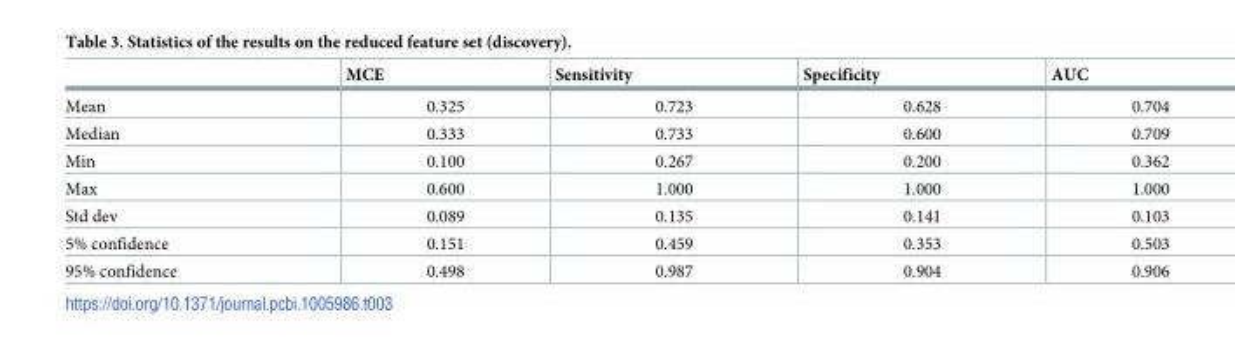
<table><thead><tr><td></td><td>MCE</td><td>Sensitivity</td><td>Specificity</td><td>AUC</td></tr></thead><tbody><tr><td>Mean</td><td>0.325</td><td>0.723</td><td>0.628</td><td>0.704</td></tr><tr><td>Median</td><td>0.333</td><td>0.733</td><td>0.600</td><td>0.709</td></tr><tr><td>Min</td><td>0.100</td><td>0.267</td><td>0.200</td><td>0.362</td></tr><tr><td>Max</td><td>0.600</td><td>1.000</td><td>1.000</td><td>1.000</td></tr><tr><td>Std dev</td><td>0.089</td><td>0.135</td><td>0.141</td><td>0.103</td></tr><tr><td>5% confidence</td><td>0.151</td><td>0.459</td><td>0.353</td><td>0.503</td></tr><tr><td>95% confidence</td><td>0.498</td><td>0.987</td><td>0.904</td><td>0.906</td></tr></tbody></table>